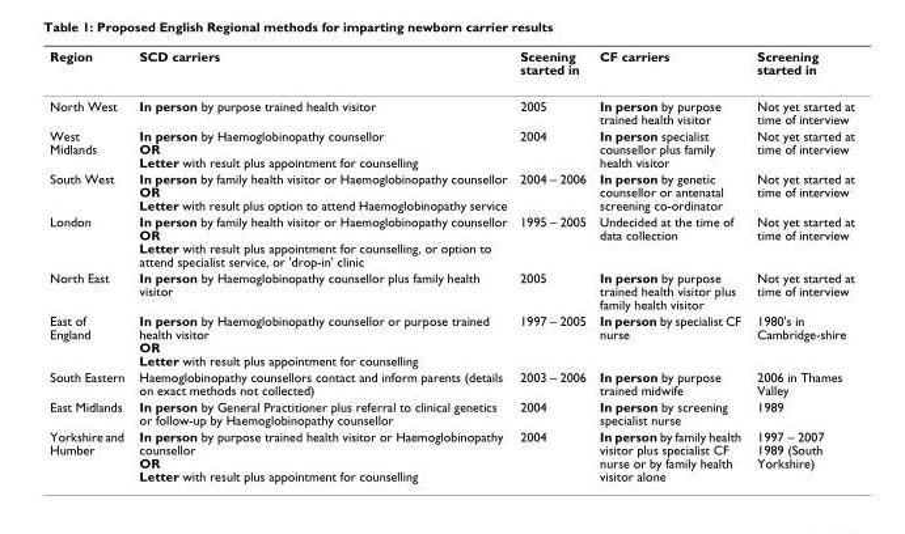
<table><thead><tr><td>Region</td><td>SCD carriers</td><td>Sceening started in</td><td>CF carriers</td><td>Screening started in</td></tr></thead><tbody><tr><td>North West</td><td>In person by purpose trained health visitor</td><td>2005</td><td>In person by purpose trained health visitor</td><td>Not yet started at time of interview</td></tr><tr><td>West Midlands</td><td>In person by Haemoglobinopathy counsellor OR Letter with result plus appointment for counselling</td><td>2004</td><td>In person specialist counsellor plus family health visitor</td><td>Not yet started at time of interview</td></tr><tr><td>South West</td><td>In person by family health visitor or Haemoglobinopathy counsellor OR Letter with result plus option to attend Haemoglobinopathy service</td><td>2004 – 2006</td><td>In person by genetic counsellor or antenatal screening co-ordinator</td><td>Not yet started at time of interview</td></tr><tr><td>London</td><td>In person by family health visitor or Haemoglobinopathy counsellor OR Letter with result plus appointment for counselling, or option to attend specialist service, or &#x27;drop-in&#x27; clinic</td><td>1995 – 2005</td><td>Undecided at the time of data collection</td><td>Not yet started at time of interview</td></tr><tr><td>North East</td><td>In person by Haemoglobinopathy counsellor plus family health visitor</td><td>2005</td><td>In person by purpose trained health visitor plus family health visitor</td><td>Not yet started at time of interview</td></tr><tr><td>East of England</td><td>In person by Haemoglobinopathy counsellor or purpose trained health visitor OR Letter with result plus appointment for counselling</td><td>1997 – 2005</td><td>In person by specialist CF nurse</td><td>1980&#x27;s in Cambridge-shire</td></tr><tr><td>South Eastern</td><td>Haemoglobinopathy counsellors contact and inform parents (details on exact methods not collected)</td><td>2003 – 2006</td><td>In person by purpose trained midwife</td><td>2006 in Thames Valley</td></tr><tr><td>East Midlands</td><td>In person by General Practitioner plus referral to clinical genetics or follow-up by Haemoglobinopathy counsellor</td><td>2004</td><td>In person by screening specialist nurse</td><td>1989</td></tr><tr><td>Yorkshire and Humber</td><td>In person by purpose trained health visitor or Haemoglobinopathy counsellor OR Letter with result plus appointment for counselling</td><td>2004</td><td>In person by family health visitor plus specialist CF nurse or by family health visitor alone</td><td>1997 – 2007 1989 (South Yorkshire)</td></tr></tbody></table>